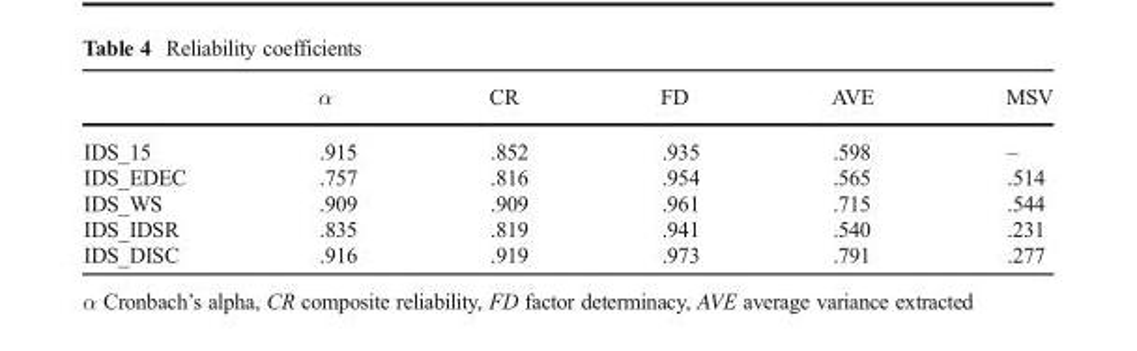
<table><thead><tr><td></td><td>α</td><td>CR</td><td>FD</td><td>AVE</td><td>MSV</td></tr></thead><tbody><tr><td>IDS_15</td><td>.915</td><td>.852</td><td>.935</td><td>.598</td><td>–</td></tr><tr><td>IDS_EDEC</td><td>.757</td><td>.816</td><td>.954</td><td>.565</td><td>.514</td></tr><tr><td>IDS_WS</td><td>.909</td><td>.909</td><td>.961</td><td>.715</td><td>.544</td></tr><tr><td>IDS_IDSR</td><td>.835</td><td>.819</td><td>.941</td><td>.540</td><td>.231</td></tr><tr><td>IDS_DISC</td><td>.916</td><td>.919</td><td>.973</td><td>.791</td><td>.277</td></tr></tbody></table>